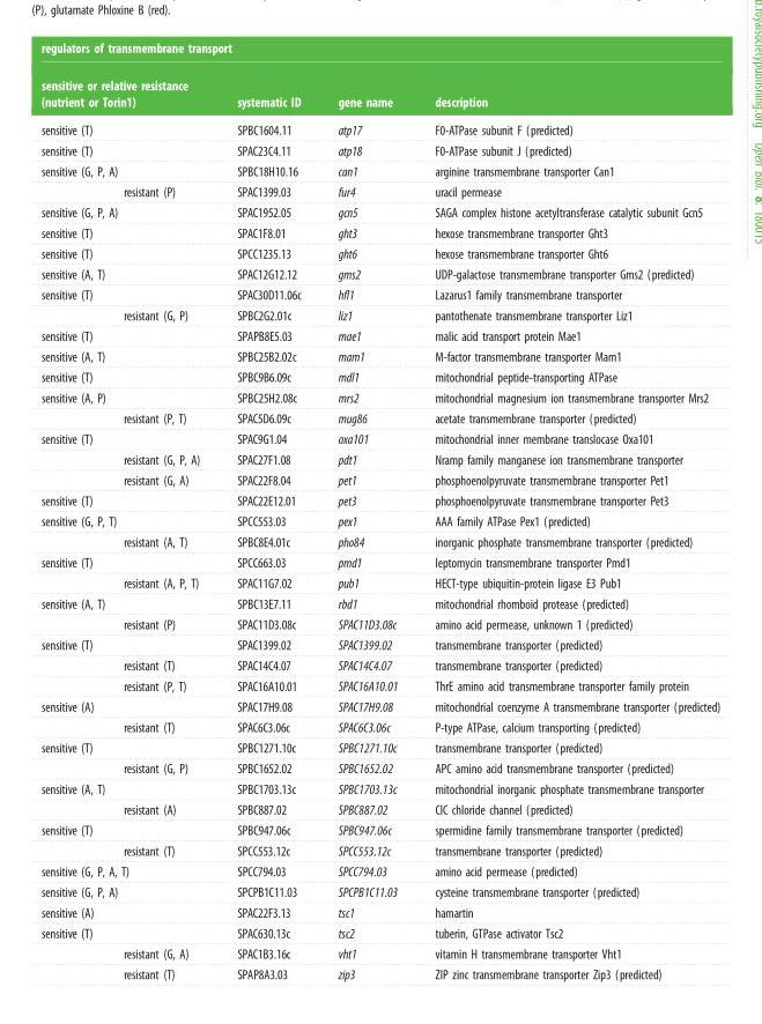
<table><thead><tr><td colspan="4">regulators of transmembrane transport</td></tr><tr><td>sensitive or relative resistance (nutrient or Torin1)</td><td>systematic ID</td><td>gene name</td><td>description</td></tr></thead><tbody><tr><td>sensitive (T)</td><td>SPBC1604.11</td><td>atp17</td><td>F0-ATPase subunit F (predicted)</td></tr><tr><td>sensitive (T)</td><td>SPAC23C4.11</td><td>atp18</td><td>F0-ATPase subunit J (predicted)</td></tr><tr><td>sensitive (G, P, A)</td><td>SPBC18H10.16</td><td>can1</td><td>arginine transmembrane transporter Can1</td></tr><tr><td>resistant (P)</td><td>SPAC1399.03</td><td>fur4</td><td>uracil permease</td></tr><tr><td>sensitive (G, P, A)</td><td>SPAC1952.05</td><td>gcn5</td><td>SAGA complex histone acetyltransferase catalytic subunit Gcn5</td></tr><tr><td>sensitive (T)</td><td>SPAC1F8.01</td><td>ght3</td><td>hexose transmembrane transporter Ght3</td></tr><tr><td>sensitive (T)</td><td>SPCC1235.13</td><td>ght6</td><td>hexose transmembrane transporter Ght6</td></tr><tr><td>sensitive (A, T)</td><td>SPAC12G12.12</td><td>gms2</td><td>UDP-galactose transmembrane transporter Gms2 (predicted)</td></tr><tr><td>sensitive (T)</td><td>SPAC30D11.06c</td><td>hfl1</td><td>Lazarus1 family transmembrane transporter</td></tr><tr><td>resistant (G, P)</td><td>SPBC2G2.01c</td><td>liz1</td><td>pantothenate transmembrane transporter Liz1</td></tr><tr><td>sensitive (T)</td><td>SPAPB8E5.03</td><td>mae1</td><td>malic acid transport protein Mae1</td></tr><tr><td>sensitive (A, T)</td><td>SPBC25B2.02c</td><td>mam1</td><td>M-factor transmembrane transporter Mam1</td></tr><tr><td>sensitive (T)</td><td>SPBC9B6.09c</td><td>mdl1</td><td>mitochondrial peptide-transporting ATPase</td></tr><tr><td>sensitive (A, P)</td><td>SPBC25H2.08c</td><td>mrs2</td><td>mitochondrial magnesium ion transmembrane transporter Mrs2</td></tr><tr><td>resistant (P, T)</td><td>SPAC5D6.09c</td><td>mug86</td><td>acetate transmembrane transporter (predicted)</td></tr><tr><td>sensitive (T)</td><td>SPAC9G1.04</td><td>oxa101</td><td>mitochondrial inner membrane translocase Oxa101</td></tr><tr><td>resistant (G, P, A)</td><td>SPAC27F1.08</td><td>pdt1</td><td>Nramp family manganese ion transmembrane transporter</td></tr><tr><td>resistant (G, A)</td><td>SPAC22F8.04</td><td>pet1</td><td>phosphoenolpyruvate transmembrane transporter Pet1</td></tr><tr><td>sensitive (T)</td><td>SPAC22E12.01</td><td>pet3</td><td>phosphoenolpyruvate transmembrane transporter Pet3</td></tr><tr><td>sensitive (G, P, T)</td><td>SPCC553.03</td><td>pex1</td><td>AAA family ATPase Pex1 (predicted)</td></tr><tr><td>resistant (A, T)</td><td>SPBC8E4.01c</td><td>pho84</td><td>inorganic phosphate transmembrane transporter (predicted)</td></tr><tr><td>sensitive (T)</td><td>SPCC663.03</td><td>pmd1</td><td>leptomycin transmembrane transporter Pmd1</td></tr><tr><td>resistant (A, P, T)</td><td>SPAC11G7.02</td><td>pub1</td><td>HECT-type ubiquitin-protein ligase E3 Pub1</td></tr><tr><td>sensitive (A, T)</td><td>SPBC13E7.11</td><td>rbd1</td><td>mitochondrial rhomboid protease (predicted)</td></tr><tr><td>resistant (P)</td><td>SPAC11D3.08c</td><td>SPAC11D3.08c</td><td>amino acid permease, unknown 1 (predicted)</td></tr><tr><td>sensitive (T)</td><td>SPAC1399.02</td><td>SPAC1399.02</td><td>transmembrane transporter (predicted)</td></tr><tr><td>resistant (T)</td><td>SPAC14C4.07</td><td>SPAC14C4.07</td><td>transmembrane transporter (predicted)</td></tr><tr><td>resistant (P, T)</td><td>SPAC16A10.01</td><td>SPAC16A10.01</td><td>ThrE amino acid transmembrane transporter family protein</td></tr><tr><td>sensitive (A)</td><td>SPAC17H9.08</td><td>SPAC17H9.08</td><td>mitochondrial coenzyme A transmembrane transporter (predicted)</td></tr><tr><td>resistant (T)</td><td>SPAC6C3.06c</td><td>SPAC6C3.06c</td><td>P-type ATPase, calcium transporting (predicted)</td></tr><tr><td>sensitive (T)</td><td>SPBC1271.10c</td><td>SPBC1271.10c</td><td>transmembrane transporter (predicted)</td></tr><tr><td>resistant (G, P)</td><td>SPBC1652.02</td><td>SPBC1652.02</td><td>APC amino acid transmembrane transporter (predicted)</td></tr><tr><td>sensitive (A, T)</td><td>SPBC1703.13c</td><td>SPBC1703.13c</td><td>mitochondrial inorganic phosphate transmembrane transporter</td></tr><tr><td>resistant (A)</td><td>SPBC887.02</td><td>SPBC887.02</td><td>ClC chloride channel (predicted)</td></tr><tr><td>sensitive (T)</td><td>SPBC947.06c</td><td>SPBC947.06c</td><td>spermidine family transmembrane transporter (predicted)</td></tr><tr><td>resistant (T)</td><td>SPCC553.12c</td><td>SPCC553.12c</td><td>transmembrane transporter (predicted)</td></tr><tr><td>sensitive (G, P, A, T)</td><td>SPCC794.03</td><td>SPCC794.03</td><td>amino acid permease (predicted)</td></tr><tr><td>sensitive (G, P, A)</td><td>SPCPB1C11.03</td><td>SPCPB1C11.03</td><td>cysteine transmembrane transporter (predicted)</td></tr><tr><td>sensitive (A)</td><td>SPAC22F3.13</td><td>tsc1</td><td>hamartin</td></tr><tr><td>sensitive (T)</td><td>SPAC630.13c</td><td>tsc2</td><td>tuberin, GTPase activator Tsc2</td></tr><tr><td>resistant (G, A)</td><td>SPAC1B3.16c</td><td>vht1</td><td>vitamin H transmembrane transporter Vht1</td></tr><tr><td>resistant (T)</td><td>SPAP8A3.03</td><td>zip3</td><td>ZIP zinc transmembrane transporter Zip3 (predicted)</td></tr></tbody></table>